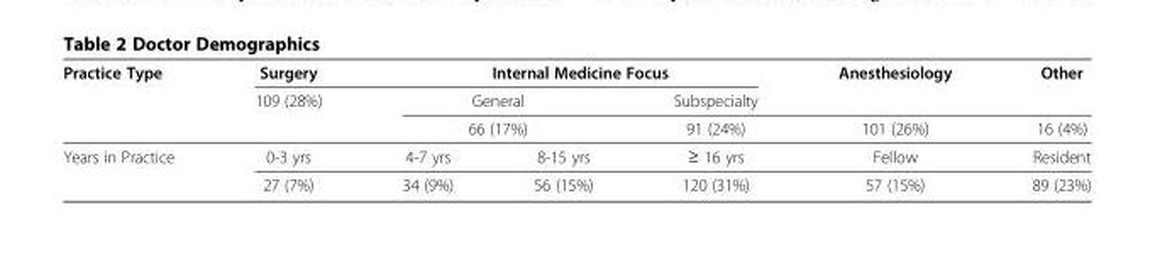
<table><tbody><tr><td rowspan="3">Practice Type</td><td>Surgery</td><td colspan="3">Internal Medicine Focus</td><td rowspan="2">Anesthesiology</td><td rowspan="2">Other</td></tr><tr><td rowspan="2">109 (28%)</td><td colspan="2">General</td><td>Subspecialty</td></tr><tr><td colspan="2">66 (17%)</td><td>91 (24%)</td><td>101 (26%)</td><td>16 (4%)</td></tr><tr><td rowspan="2">Years in Practice</td><td>0-3 yrs</td><td>4-7 yrs</td><td>8-15 yrs</td><td>≥ 16 yrs</td><td>Fellow</td><td>Resident</td></tr><tr><td>27 (7%)</td><td>34 (9%)</td><td>56 (15%)</td><td>120 (31%)</td><td>57 (15%)</td><td>89 (23%)</td></tr></tbody></table>